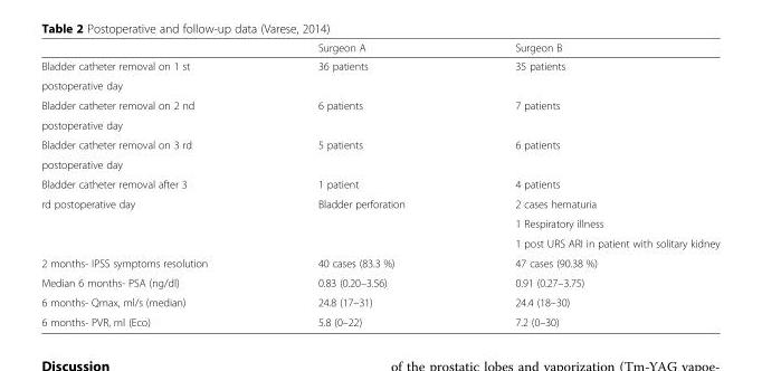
<table><thead><tr><td></td><td>Surgeon A</td><td>Surgeon B</td></tr></thead><tbody><tr><td>Bladder catheter removal on 1 st</td><td>36 patients</td><td>35 patients</td></tr><tr><td colspan="3">postoperative day</td></tr><tr><td>Bladder catheter removal on 2 nd</td><td>6 patients</td><td>7 patients</td></tr><tr><td colspan="3">postoperative day</td></tr><tr><td>Bladder catheter removal on 3 rd</td><td>5 patients</td><td>6 patients</td></tr><tr><td colspan="3">postoperative day</td></tr><tr><td>Bladder catheter removal after 3</td><td>1 patient</td><td>4 patients</td></tr><tr><td rowspan="3">rd postoperative day</td><td rowspan="3">Bladder perforation</td><td>2 cases hematuria</td></tr><tr><td>1 Respiratory illness</td></tr><tr><td>1 post URS ARI in patient with solitary kidney</td></tr><tr><td>2 months- IPSS symptoms resolution</td><td>40 cases (83.3 %)</td><td>47 cases (90.38 %)</td></tr><tr><td>Median 6 months- PSA (ng/dl)</td><td>0.83 (0.20–3.56)</td><td>0.91 (0.27–3.75)</td></tr><tr><td>6 months- Qmax, ml/s (median)</td><td>24.8 (17–31)</td><td>24.4 (18–30)</td></tr><tr><td>6 months- PVR, ml (Eco)</td><td>5.8 (0–22)</td><td>7.2 (0–30)</td></tr></tbody></table>